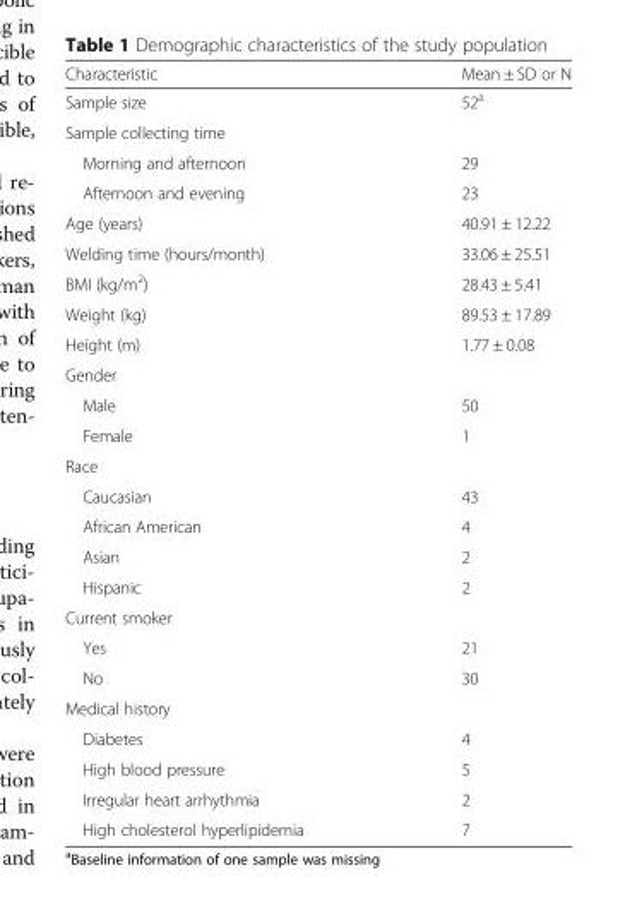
<table><thead><tr><td>Characteristic</td><td>Mean ± SD or N</td></tr></thead><tbody><tr><td>Sample size</td><td>52<sup>a</sup></td></tr><tr><td colspan="2">Sample collecting time</td></tr><tr><td>Morning and afternoon</td><td>29</td></tr><tr><td>Afternoon and evening</td><td>23</td></tr><tr><td>Age (years)</td><td>40.91 ± 12.22</td></tr><tr><td>Welding time (hours/month)</td><td>33.06 ± 25.51</td></tr><tr><td>BMI (kg/m<sup>2</sup>)</td><td>28.43 ± 5.41</td></tr><tr><td>Weight (kg)</td><td>89.53 ± 17.89</td></tr><tr><td>Height (m)</td><td>1.77 ± 0.08</td></tr><tr><td colspan="2">Gender</td></tr><tr><td>Male</td><td>50</td></tr><tr><td>Female</td><td>1</td></tr><tr><td colspan="2">Race</td></tr><tr><td>Caucasian</td><td>43</td></tr><tr><td>African American</td><td>4</td></tr><tr><td>Asian</td><td>2</td></tr><tr><td>Hispanic</td><td>2</td></tr><tr><td colspan="2">Current smoker</td></tr><tr><td>Yes</td><td>21</td></tr><tr><td>No</td><td>30</td></tr><tr><td colspan="2">Medical history</td></tr><tr><td>Diabetes</td><td>4</td></tr><tr><td>High blood pressure</td><td>5</td></tr><tr><td>Irregular heart arrhythmia</td><td>2</td></tr><tr><td>High cholesterol hyperlipidemia</td><td>7</td></tr></tbody></table>